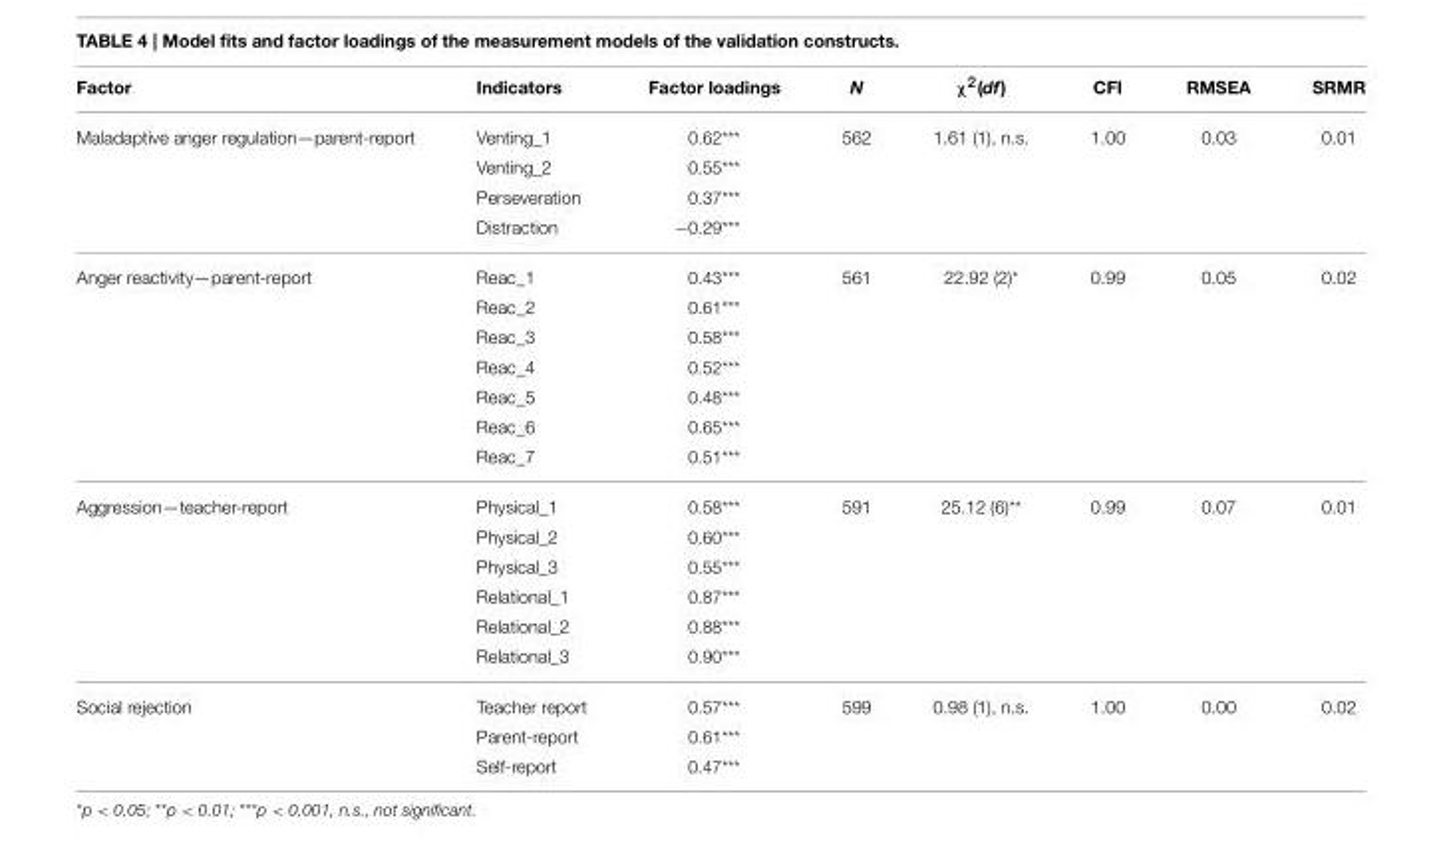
<table><thead><tr><td>Factor</td><td>Indicators</td><td>Factor loadings</td><td>N</td><td>χ<sup>2</sup>(df)</td><td>CFI</td><td>RMSEA</td><td>SRMR</td></tr></thead><tbody><tr><td rowspan="4">Maladaptive anger regulation—parent-report</td><td>Venting_1</td><td>0.62***</td><td>562</td><td>1.61 (1), n.s.</td><td>1.00</td><td>0.03</td><td>0.01</td></tr><tr><td>Venting_2</td><td>0.55***</td><td></td><td></td><td></td><td></td><td></td></tr><tr><td>Perseveration</td><td>0.37***</td><td></td><td></td><td></td><td></td><td></td></tr><tr><td>Distraction</td><td>−0.29***</td><td></td><td></td><td></td><td></td><td></td></tr><tr><td rowspan="7">Anger reactivity—parent-report</td><td>Reac_1</td><td>0.43***</td><td>561</td><td>22.92 (2)*</td><td>0.99</td><td>0.05</td><td>0.02</td></tr><tr><td>Reac_2</td><td>0.61***</td><td></td><td></td><td></td><td></td><td></td></tr><tr><td>Reac_3</td><td>0.58***</td><td></td><td></td><td></td><td></td><td></td></tr><tr><td>Reac_4</td><td>0.52***</td><td></td><td></td><td></td><td></td><td></td></tr><tr><td>Reac_5</td><td>0.48***</td><td></td><td></td><td></td><td></td><td></td></tr><tr><td>Reac_6</td><td>0.65***</td><td></td><td></td><td></td><td></td><td></td></tr><tr><td>Reac_7</td><td>0.51***</td><td></td><td></td><td></td><td></td><td></td></tr><tr><td rowspan="6">Aggression—teacher-report</td><td>Physical_1</td><td>0.58***</td><td>591</td><td>25.12 (6)**</td><td>0.99</td><td>0.07</td><td>0.01</td></tr><tr><td>Physical_2</td><td>0.60***</td><td></td><td></td><td></td><td></td><td></td></tr><tr><td>Physical_3</td><td>0.55***</td><td></td><td></td><td></td><td></td><td></td></tr><tr><td>Relational_1</td><td>0.87***</td><td></td><td></td><td></td><td></td><td></td></tr><tr><td>Relational_2</td><td>0.88***</td><td></td><td></td><td></td><td></td><td></td></tr><tr><td>Relational_3</td><td>0.90***</td><td></td><td></td><td></td><td></td><td></td></tr><tr><td rowspan="3">Social rejection</td><td>Teacher report</td><td>0.57***</td><td>599</td><td>0.98 (1), n.s.</td><td>1.00</td><td>0.00</td><td>0.02</td></tr><tr><td>Parent-report</td><td>0.61***</td><td></td><td></td><td></td><td></td><td></td></tr><tr><td>Self-report</td><td>0.47***</td><td></td><td></td><td></td><td></td><td></td></tr></tbody></table>